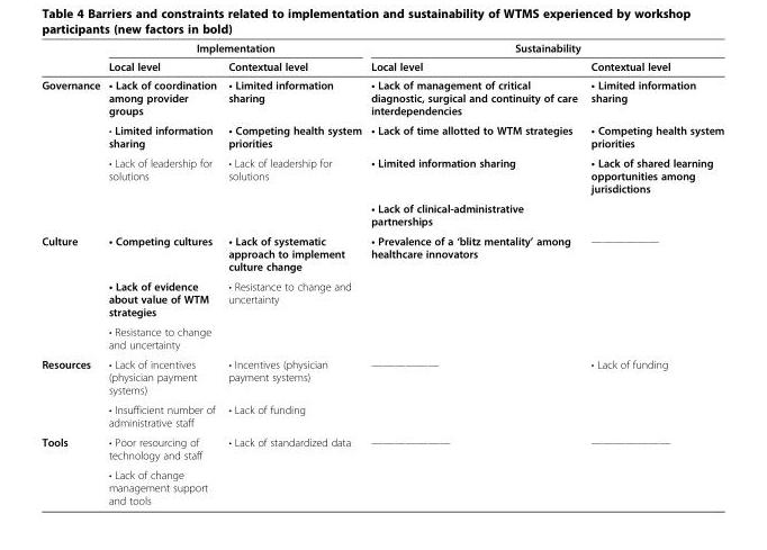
<table><thead><tr><td rowspan="2"></td><td colspan="2">Implementation</td><td colspan="2">Sustainability</td></tr><tr><td>Local level</td><td>Contextual level</td><td>Local level</td><td>Contextual level</td></tr></thead><tbody><tr><td rowspan="4">Governance</td><td>• Lack of coordination among provider groups</td><td>• Limited information sharing</td><td>• Lack of management of critical diagnostic, surgical and continuity of care interdependencies</td><td>• Limited information sharing</td></tr><tr><td>• Limited information sharing</td><td>• Competing health system priorities</td><td>• Lack of time allotted to WTM strategies</td><td>• Competing health system priorities</td></tr><tr><td>• Lack of leadership for solutions</td><td>• Lack of leadership for solutions</td><td>• Limited information sharing</td><td>• Lack of shared learning opportunities among jurisdictions</td></tr><tr><td></td><td></td><td>• Lack of clinical-administrative partnerships</td><td></td></tr><tr><td rowspan="3">Culture</td><td>• Competing cultures</td><td>• Lack of systematic approach to implement culture change</td><td>• Prevalence of a ‘blitz mentality’ among healthcare innovators</td><td>——————</td></tr><tr><td>• Lack of evidence about value of WTM strategies</td><td>• Resistance to change and uncertainty</td><td></td><td></td></tr><tr><td>• Resistance to change and uncertainty</td><td></td><td></td><td></td></tr><tr><td rowspan="2">Resources</td><td>• Lack of incentives (physician payment systems)</td><td>• Incentives (physician payment systems)</td><td>——————</td><td>• Lack of funding</td></tr><tr><td>• Insufficient number of administrative staff</td><td>• Lack of funding</td><td></td><td></td></tr><tr><td rowspan="2">Tools</td><td>• Poor resourcing of technology and staff</td><td>• Lack of standardized data</td><td>———————</td><td>———————</td></tr><tr><td>• Lack of change management support and tools</td><td></td><td></td><td></td></tr></tbody></table>